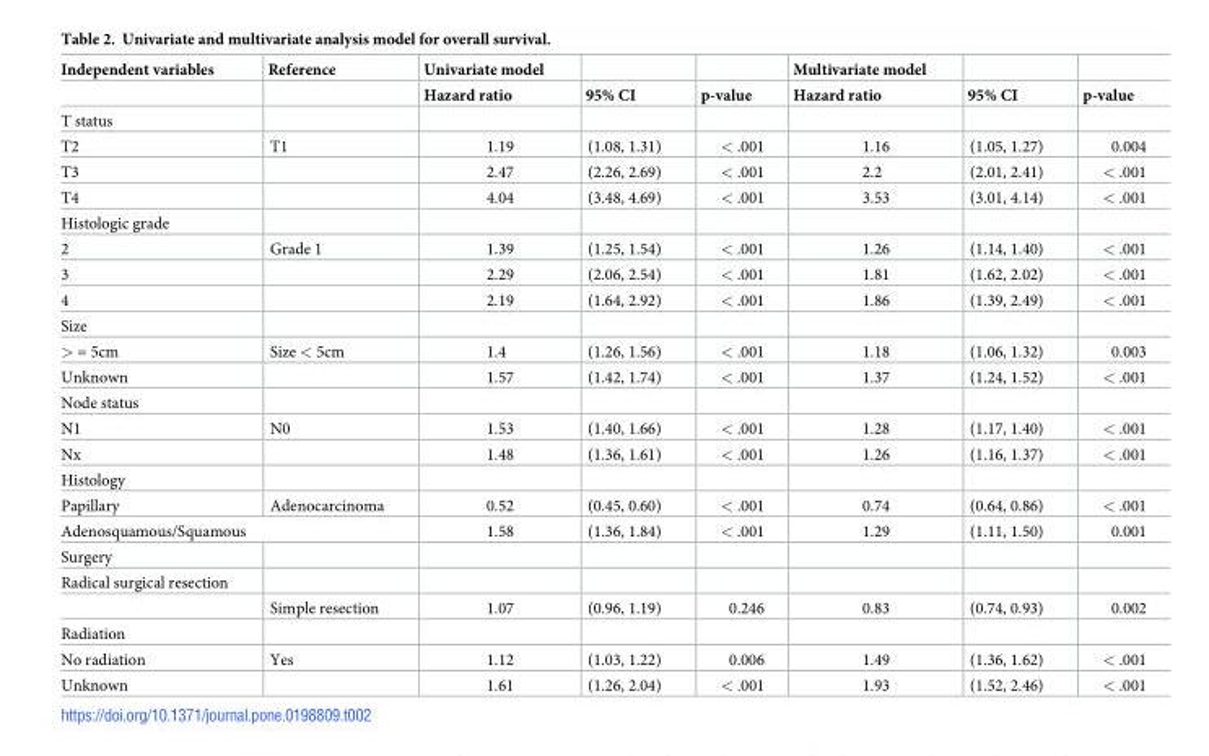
<table><thead><tr><td rowspan="2">Independent variables</td><td rowspan="2">Reference</td><td rowspan="2">Univariate model Hazard ratio</td><td rowspan="2">95% CI</td><td rowspan="2">p-value</td><td rowspan="2">Multivariate model Hazard ratio</td><td rowspan="2">95% CI</td><td rowspan="2">p-value</td></tr><tr></tr></thead><tbody><tr><td colspan="8">T status</td></tr><tr><td>T2</td><td>T1</td><td>1.19</td><td>(1.08, 1.31)</td><td>&lt; .001</td><td>1.16</td><td>(1.05, 1.27)</td><td>0.004</td></tr><tr><td>T3</td><td></td><td>2.47</td><td>(2.26, 2.69)</td><td>&lt; .001</td><td>2.2</td><td>(2.01, 2.41)</td><td>&lt; .001</td></tr><tr><td>T4</td><td></td><td>4.04</td><td>(3.48, 4.69)</td><td>&lt; .001</td><td>3.53</td><td>(3.01, 4.14)</td><td>&lt; .001</td></tr><tr><td colspan="8">Histologic grade</td></tr><tr><td>2</td><td>Grade 1</td><td>1.39</td><td>(1.25, 1.54)</td><td>&lt; .001</td><td>1.26</td><td>(1.14, 1.40)</td><td>&lt; .001</td></tr><tr><td>3</td><td></td><td>2.29</td><td>(2.06, 2.54)</td><td>&lt; .001</td><td>1.81</td><td>(1.62, 2.02)</td><td>&lt; .001</td></tr><tr><td>4</td><td></td><td>2.19</td><td>(1.64, 2.92)</td><td>&lt; .001</td><td>1.86</td><td>(1.39, 2.49)</td><td>&lt; .001</td></tr><tr><td colspan="8">Size</td></tr><tr><td>&gt; = 5cm</td><td>Size &lt; 5cm</td><td>1.4</td><td>(1.26, 1.56)</td><td>&lt; .001</td><td>1.18</td><td>(1.06, 1.32)</td><td>0.003</td></tr><tr><td>Unknown</td><td></td><td>1.57</td><td>(1.42, 1.74)</td><td>&lt; .001</td><td>1.37</td><td>(1.24, 1.52)</td><td>&lt; .001</td></tr><tr><td colspan="8">Node status</td></tr><tr><td>N1</td><td>N0</td><td>1.53</td><td>(1.40, 1.66)</td><td>&lt; .001</td><td>1.28</td><td>(1.17, 1.40)</td><td>&lt; .001</td></tr><tr><td>Nx</td><td></td><td>1.48</td><td>(1.36, 1.61)</td><td>&lt; .001</td><td>1.26</td><td>(1.16, 1.37)</td><td>&lt; .001</td></tr><tr><td colspan="8">Histology</td></tr><tr><td>Papillary</td><td>Adenocarcinoma</td><td>0.52</td><td>(0.45, 0.60)</td><td>&lt; .001</td><td>0.74</td><td>(0.64, 0.86)</td><td>&lt; .001</td></tr><tr><td colspan="2">Adenosquamous/Squamous</td><td>1.58</td><td>(1.36, 1.84)</td><td>&lt; .001</td><td>1.29</td><td>(1.11, 1.50)</td><td>0.001</td></tr><tr><td colspan="8">Surgery</td></tr><tr><td colspan="8">Radical surgical resection</td></tr><tr><td></td><td>Simple resection</td><td>1.07</td><td>(0.96, 1.19)</td><td>0.246</td><td>0.83</td><td>(0.74, 0.93)</td><td>0.002</td></tr><tr><td colspan="8">Radiation</td></tr><tr><td>No radiation</td><td>Yes</td><td>1.12</td><td>(1.03, 1.22)</td><td>0.006</td><td>1.49</td><td>(1.36, 1.62)</td><td>&lt; .001</td></tr><tr><td>Unknown</td><td></td><td>1.61</td><td>(1.26, 2.04)</td><td>&lt; .001</td><td>1.93</td><td>(1.52, 2.46)</td><td>&lt; .001</td></tr></tbody></table>